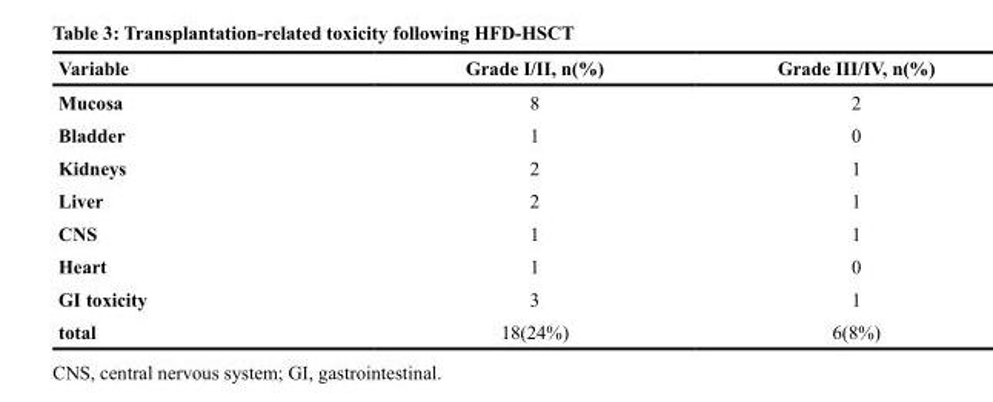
<table><thead><tr><td>Variable</td><td>Grade I/II, n(%)</td><td>Grade III/IV, n(%)</td></tr></thead><tbody><tr><td>Mucosa</td><td>8</td><td>2</td></tr><tr><td>Bladder</td><td>1</td><td>0</td></tr><tr><td>Kidneys</td><td>2</td><td>1</td></tr><tr><td>Liver</td><td>2</td><td>1</td></tr><tr><td>CNS</td><td>1</td><td>1</td></tr><tr><td>Heart</td><td>1</td><td>0</td></tr><tr><td>GI toxicity</td><td>3</td><td>1</td></tr><tr><td>total</td><td>18(24%)</td><td>6(8%)</td></tr></tbody></table>